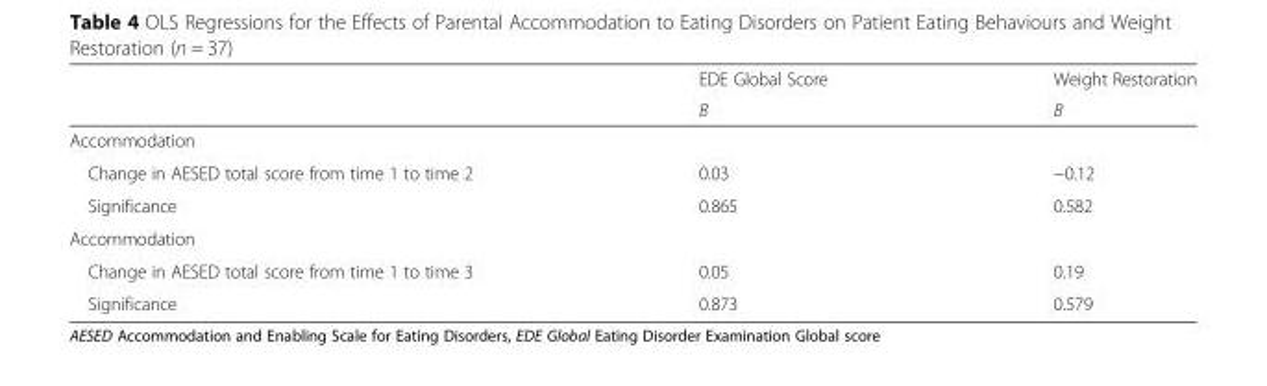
<table><thead><tr><td rowspan="2"></td><td rowspan="2">EDE Global Score B</td><td rowspan="2">Weight Restoration B</td></tr><tr></tr></thead><tbody><tr><td colspan="3">Accommodation</td></tr><tr><td>Change in AESED total score from time 1 to time 2</td><td>0.03</td><td>−0.12</td></tr><tr><td>Significance</td><td>0.865</td><td>0.582</td></tr><tr><td colspan="3">Accommodation</td></tr><tr><td>Change in AESED total score from time 1 to time 3</td><td>0.05</td><td>0.19</td></tr><tr><td>Significance</td><td>0.873</td><td>0.579</td></tr></tbody></table>